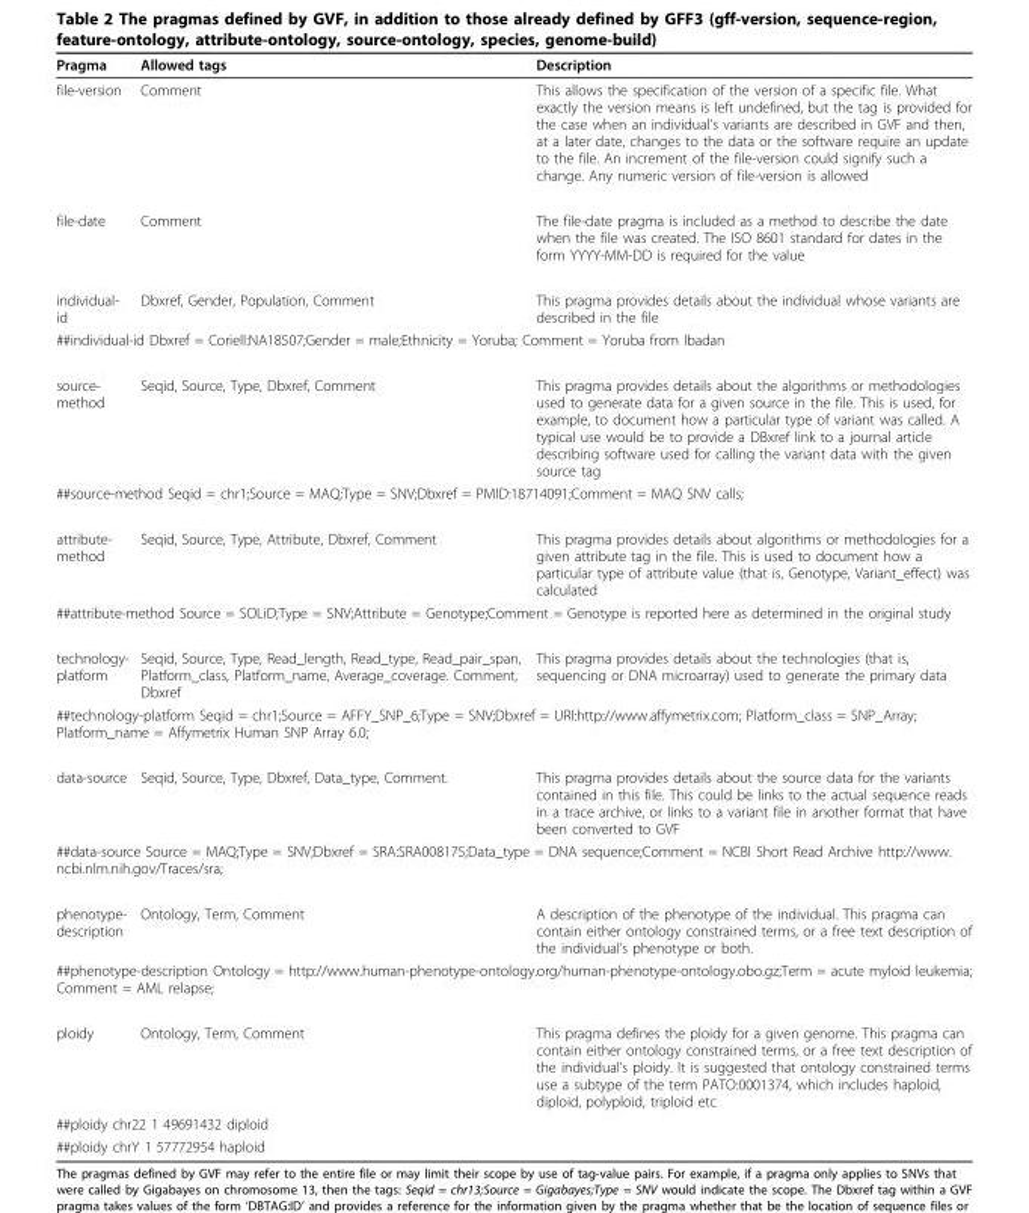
<table><thead><tr><td>Pragma</td><td>Allowed tags</td><td>Description</td></tr></thead><tbody><tr><td>file-version</td><td>Comment</td><td>This allows the specification of the version of a specific file. What exactly the version means is left undefined, but the tag is provided for the case when an individual’s variants are described in GVF and then, at a later date, changes to the data or the software require an update to the file. An increment of the file-version could signify such a change. Any numeric version of file-version is allowed</td></tr><tr><td>file-date</td><td>Comment</td><td>The file-date pragma is included as a method to describe the date when the file was created. The ISO 8601 standard for dates in the form YYYY-MM-DD is required for the value</td></tr><tr><td>individual- id</td><td>Dbxref, Gender, Population, Comment</td><td>This pragma provides details about the individual whose variants are described in the file</td></tr><tr><td colspan="3">##individual-id Dbxref = Coriell:NA18507;Gender = male;Ethnicity = Yoruba; Comment = Yoruba from Ibadan</td></tr><tr><td>source- method</td><td>Seqid, Source, Type, Dbxref, Comment</td><td>This pragma provides details about the algorithms or methodologies used to generate data for a given source in the file. This is used, for example, to document how a particular type of variant was called. A typical use would be to provide a DBxref link to a journal article describing software used for calling the variant data with the given source tag</td></tr><tr><td colspan="3">##source-method Seqid = chr1;Source = MAQ;Type = SNV;Dbxref = PMID:18714091;Comment = MAQ SNV calls;</td></tr><tr><td>attribute- method</td><td>Seqid, Source, Type, Attribute, Dbxref, Comment</td><td>This pragma provides details about algorithms or methodologies for a given attribute tag in the file. This is used to document how a particular type of attribute value (that is, Genotype, Variant_effect) was calculated</td></tr><tr><td colspan="3">##attribute-method Source = SOLiD;Type = SNV;Attribute = Genotype;Comment = Genotype is reported here as determined in the original study</td></tr><tr><td>technology- platform</td><td>Seqid, Source, Type, Read_length, Read_type, Read_pair_span, Platform_class, Platform_name, Average_coverage. Comment, Dbxref</td><td>This pragma provides details about the technologies (that is, sequencing or DNA microarray) used to generate the primary data</td></tr><tr><td colspan="3">##technology-platform Seqid = chr1;Source = AFFY_SNP_6;Type = SNV;Dbxref = URI:http://www.affymetrix.com; Platform_class = SNP_Array; Platform_name = Affymetrix Human SNP Array 6.0;</td></tr><tr><td>data-source</td><td>Seqid, Source, Type, Dbxref, Data_type, Comment.</td><td>This pragma provides details about the source data for the variants contained in this file. This could be links to the actual sequence reads in a trace archive, or links to a variant file in another format that have been converted to GVF</td></tr><tr><td colspan="3">##data-source Source = MAQ;Type = SNV;Dbxref = SRA:SRA008175;Data_type = DNA sequence;Comment = NCBI Short Read Archive http://www. ncbi.nlm.nih.gov/Traces/sra;</td></tr><tr><td>phenotype- description</td><td>Ontology, Term, Comment</td><td>A description of the phenotype of the individual. This pragma can contain either ontology constrained terms, or a free text description of the individual’s phenotype or both.</td></tr><tr><td colspan="3">##phenotype-description Ontology = http://www.human-phenotype-ontology.org/human-phenotype-ontology.obo.gz;Term = acute myloid leukemia; Comment = AML relapse;</td></tr><tr><td>ploidy</td><td>Ontology, Term, Comment</td><td>This pragma defines the ploidy for a given genome. This pragma can contain either ontology constrained terms, or a free text description of the individual’s ploidy. It is suggested that ontology constrained terms use a subtype of the term PATO:0001374, which includes haploid, diploid, polyploid, triploid etc</td></tr><tr><td colspan="3">##ploidy chr22 1 49691432 diploid</td></tr><tr><td colspan="3">##ploidy chrY 1 57772954 haploid</td></tr></tbody></table>